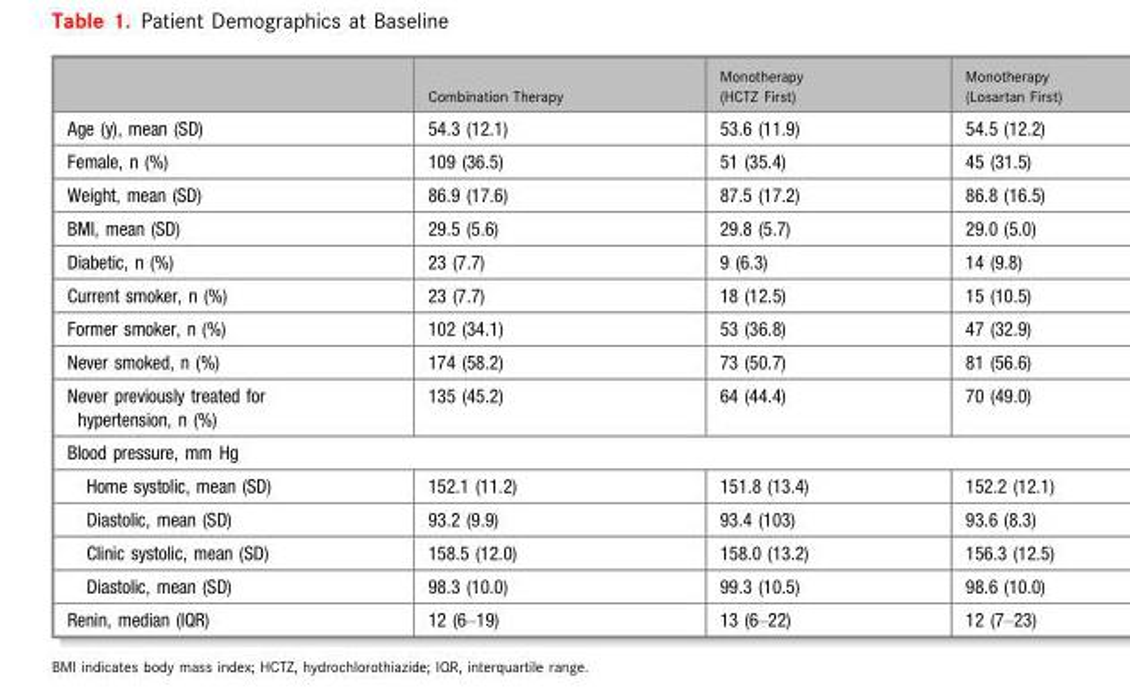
<table><thead><tr><td></td><td>Combination Therapy</td><td>Monotherapy (HCTZ First)</td><td>Monotherapy (Losartan First)</td></tr></thead><tbody><tr><td>Age (y), mean (SD)</td><td>54.3 (12.1)</td><td>53.6 (11.9)</td><td>54.5 (12.2)</td></tr><tr><td>Female, n (%)</td><td>109 (36.5)</td><td>51 (35.4)</td><td>45 (31.5)</td></tr><tr><td>Weight, mean (SD)</td><td>86.9 (17.6)</td><td>87.5 (17.2)</td><td>86.8 (16.5)</td></tr><tr><td>BMI, mean (SD)</td><td>29.5 (5.6)</td><td>29.8 (5.7)</td><td>29.0 (5.0)</td></tr><tr><td>Diabetic, n (%)</td><td>23 (7.7)</td><td>9 (6.3)</td><td>14 (9.8)</td></tr><tr><td>Current smoker, n (%)</td><td>23 (7.7)</td><td>18 (12.5)</td><td>15 (10.5)</td></tr><tr><td>Former smoker, n (%)</td><td>102 (34.1)</td><td>53 (36.8)</td><td>47 (32.9)</td></tr><tr><td>Never smoked, n (%)</td><td>174 (58.2)</td><td>73 (50.7)</td><td>81 (56.6)</td></tr><tr><td>Never previously treated for hypertension, n (%)</td><td>135 (45.2)</td><td>64 (44.4)</td><td>70 (49.0)</td></tr><tr><td colspan="4">Blood pressure, mm Hg</td></tr><tr><td>Home systolic, mean (SD)</td><td>152.1 (11.2)</td><td>151.8 (13.4)</td><td>152.2 (12.1)</td></tr><tr><td>Diastolic, mean (SD)</td><td>93.2 (9.9)</td><td>93.4 (103)</td><td>93.6 (8.3)</td></tr><tr><td>Clinic systolic, mean (SD)</td><td>158.5 (12.0)</td><td>158.0 (13.2)</td><td>156.3 (12.5)</td></tr><tr><td>Diastolic, mean (SD)</td><td>98.3 (10.0)</td><td>99.3 (10.5)</td><td>98.6 (10.0)</td></tr><tr><td>Renin, median (IQR)</td><td>12 (6–19)</td><td>13 (6–22)</td><td>12 (7–23)</td></tr></tbody></table>